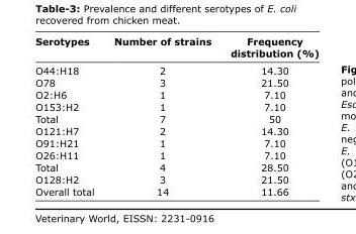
<table><thead><tr><td>Serotypes</td><td>Number of strains</td><td>Frequency distribution (%)</td></tr></thead><tbody><tr><td>O44:H18</td><td>2</td><td>14.30</td></tr><tr><td>O78</td><td>3</td><td>21.50</td></tr><tr><td>O2:H6</td><td>1</td><td>7.10</td></tr><tr><td>O153:H2</td><td>1</td><td>7.10</td></tr><tr><td>Total</td><td>7</td><td>50</td></tr><tr><td>O121:H7</td><td>2</td><td>14.30</td></tr><tr><td>O91:H21</td><td>1</td><td>7.10</td></tr><tr><td>O26:H11</td><td>1</td><td>7.10</td></tr><tr><td>Total</td><td>4</td><td>28.50</td></tr><tr><td>O128:H2</td><td>3</td><td>21.50</td></tr><tr><td>Overall total</td><td>14</td><td>11.66</td></tr></tbody></table>